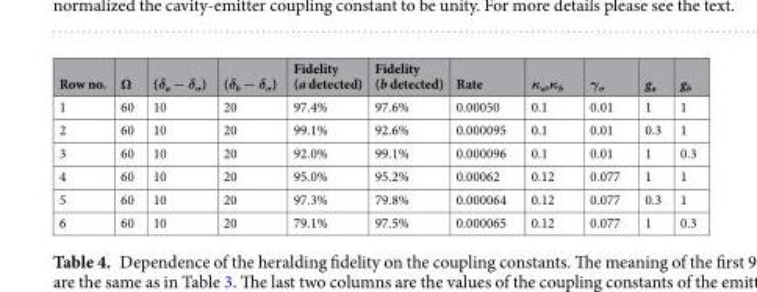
<table><thead><tr><td>Row no.</td><td>Ω</td><td>(δ<sub>a</sub> − δ<sub>σ</sub>)</td><td>(δ<sub>b</sub> − δ<sub>σ</sub>)</td><td>Fidelity (a detected)</td><td>Fidelity (b detected)</td><td>Rate</td><td>κ<sub>a</sub>,κ<sub>b</sub></td><td>γ<sub>σ</sub></td><td>g<sub>a</sub></td><td>g<sub>b</sub></td></tr></thead><tbody><tr><td>1</td><td>60</td><td>10</td><td>20</td><td>97.4%</td><td>97.6%</td><td>0.00050</td><td>0.1</td><td>0.01</td><td>1</td><td>1</td></tr><tr><td>2</td><td>60</td><td>10</td><td>20</td><td>99.1%</td><td>92.6%</td><td>0.000095</td><td>0.1</td><td>0.01</td><td>0.3</td><td>1</td></tr><tr><td>3</td><td>60</td><td>10</td><td>20</td><td>92.0%</td><td>99.1%</td><td>0.000096</td><td>0.1</td><td>0.01</td><td>1</td><td>0.3</td></tr><tr><td>4</td><td>60</td><td>10</td><td>20</td><td>95.0%</td><td>95.2%</td><td>0.00062</td><td>0.12</td><td>0.077</td><td>1</td><td>1</td></tr><tr><td>5</td><td>60</td><td>10</td><td>20</td><td>97.3%</td><td>79.8%</td><td>0.000064</td><td>0.12</td><td>0.077</td><td>0.3</td><td>1</td></tr><tr><td>6</td><td>60</td><td>10</td><td>20</td><td>79.1%</td><td>97.5%</td><td>0.000065</td><td>0.12</td><td>0.077</td><td>1</td><td>0.3</td></tr></tbody></table>